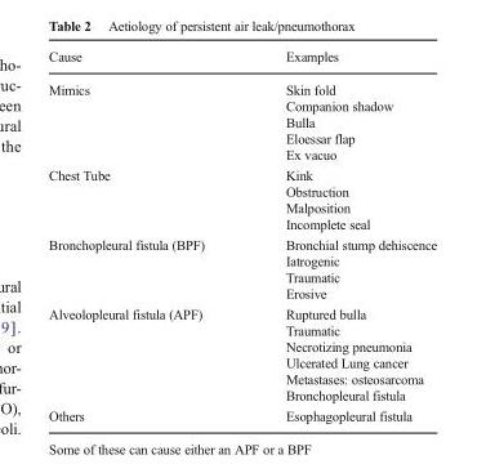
<table><thead><tr><td>Cause</td><td>Examples</td></tr></thead><tbody><tr><td>Mimics</td><td>Skin fold Companion shadow Bulla Eloessar flap Ex vacuo</td></tr><tr><td>Chest Tube</td><td>Kink Obstruction Malposition Incomplete seal</td></tr><tr><td>Bronchopleural fistula (BPF)</td><td>Bronchial stump dehiscence Iatrogenic Traumatic Erosive</td></tr><tr><td>Alveolopleural fistula (APF)</td><td>Ruptured bulla Traumatic Necrotizing pneumonia Ulcerated Lung cancer Metastases: osteosarcoma Bronchopleural fistula</td></tr><tr><td>Others</td><td>Esophagopleural fistula</td></tr></tbody></table>